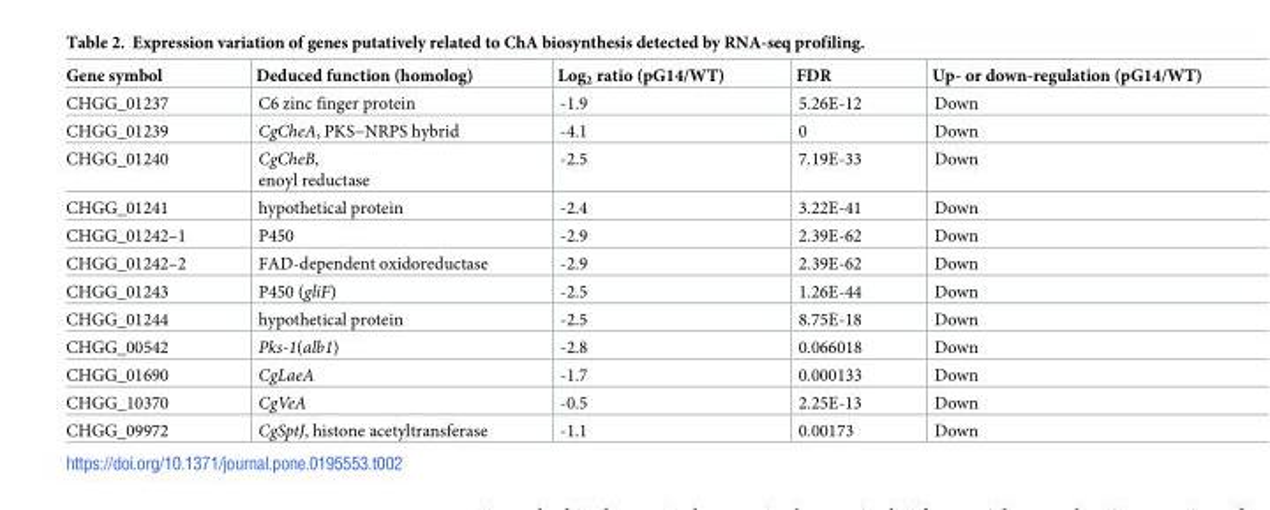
<table><thead><tr><td>Gene symbol</td><td>Deduced function (homolog)</td><td>Log<sub>2</sub> ratio (pG14/WT)</td><td>FDR</td><td>Up- or down-regulation (pG14/WT)</td></tr></thead><tbody><tr><td>CHGG_01237</td><td>C6 zinc finger protein</td><td>-1.9</td><td>5.26E-12</td><td>Down</td></tr><tr><td>CHGG_01239</td><td>CgCheA, PKS−NRPS hybrid</td><td>-4.1</td><td>0</td><td>Down</td></tr><tr><td>CHGG_01240</td><td>CgCheB, enoyl reductase</td><td>-2.5</td><td>7.19E-33</td><td>Down</td></tr><tr><td>CHGG_01241</td><td>hypothetical protein</td><td>-2.4</td><td>3.22E-41</td><td>Down</td></tr><tr><td>CHGG_01242–1</td><td>P450</td><td>-2.9</td><td>2.39E-62</td><td>Down</td></tr><tr><td>CHGG_01242–2</td><td>FAD-dependent oxidoreductase</td><td>-2.9</td><td>2.39E-62</td><td>Down</td></tr><tr><td>CHGG_01243</td><td>P450 (gliF)</td><td>-2.5</td><td>1.26E-44</td><td>Down</td></tr><tr><td>CHGG_01244</td><td>hypothetical protein</td><td>-2.5</td><td>8.75E-18</td><td>Down</td></tr><tr><td>CHGG_00542</td><td>Pks-1(alb1)</td><td>-2.8</td><td>0.066018</td><td>Down</td></tr><tr><td>CHGG_01690</td><td>CgLaeA</td><td>-1.7</td><td>0.000133</td><td>Down</td></tr><tr><td>CHGG_10370</td><td>CgVeA</td><td>-0.5</td><td>2.25E-13</td><td>Down</td></tr><tr><td>CHGG_09972</td><td>CgSptJ, histone acetyltransferase</td><td>-1.1</td><td>0.00173</td><td>Down</td></tr></tbody></table>